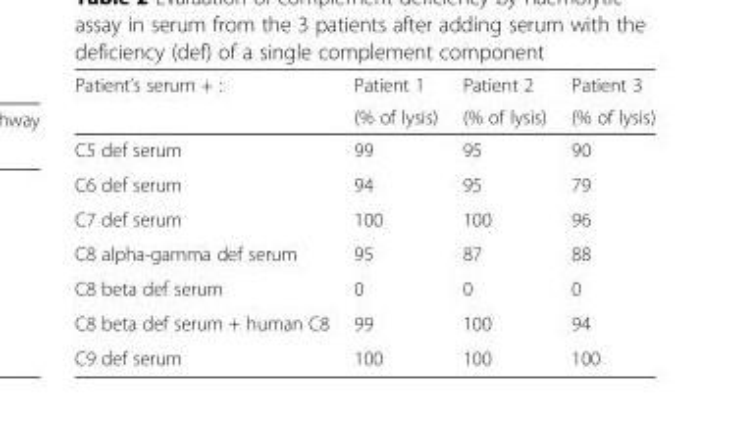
<table><thead><tr><td rowspan="2">Patient’s serum + :</td><td rowspan="2">Patient 1 (% of lysis)</td><td rowspan="2">Patient 2 (% of lysis)</td><td rowspan="2">Patient 3 (% of lysis)</td></tr><tr></tr></thead><tbody><tr><td>C5 def serum</td><td>99</td><td>95</td><td>90</td></tr><tr><td>C6 def serum</td><td>94</td><td>95</td><td>79</td></tr><tr><td>C7 def serum</td><td>100</td><td>100</td><td>96</td></tr><tr><td>C8 alpha-gamma def serum</td><td>95</td><td>87</td><td>88</td></tr><tr><td>C8 beta def serum</td><td>0</td><td>0</td><td>0</td></tr><tr><td>C8 beta def serum + human C8</td><td>99</td><td>100</td><td>94</td></tr><tr><td>C9 def serum</td><td>100</td><td>100</td><td>100</td></tr></tbody></table>